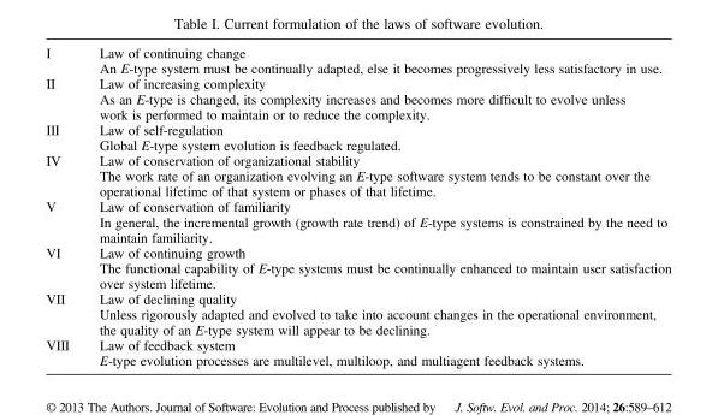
<table><tbody><tr><td rowspan="2">I</td><td>Law of continuing change</td></tr><tr><td>An E-type system must be continually adapted, else it becomes progressively less satisfactory in use.</td></tr><tr><td rowspan="2">II</td><td>Law of increasing complexity</td></tr><tr><td>As an E-type is changed, its complexity increases and becomes more difficult to evolve unless work is performed to maintain or to reduce the complexity.</td></tr><tr><td rowspan="2">III</td><td>Law of self-regulation</td></tr><tr><td>Global E-type system evolution is feedback regulated.</td></tr><tr><td rowspan="2">IV</td><td>Law of conservation of organizational stability</td></tr><tr><td>The work rate of an organization evolving an E-type software system tends to be constant over the operational lifetime of that system or phases of that lifetime.</td></tr><tr><td rowspan="2">V</td><td>Law of conservation of familiarity</td></tr><tr><td>In general, the incremental growth (growth rate trend) of E-type systems is constrained by the need to maintain familiarity.</td></tr><tr><td rowspan="2">VI</td><td>Law of continuing growth</td></tr><tr><td>The functional capability of E-type systems must be continually enhanced to maintain user satisfaction over system lifetime.</td></tr><tr><td rowspan="2">VII</td><td>Law of declining quality</td></tr><tr><td>Unless rigorously adapted and evolved to take into account changes in the operational environment, the quality of an E-type system will appear to be declining.</td></tr><tr><td rowspan="2">VIII</td><td>Law of feedback system</td></tr><tr><td>E-type evolution processes are multilevel, multiloop, and multiagent feedback systems.</td></tr></tbody></table>